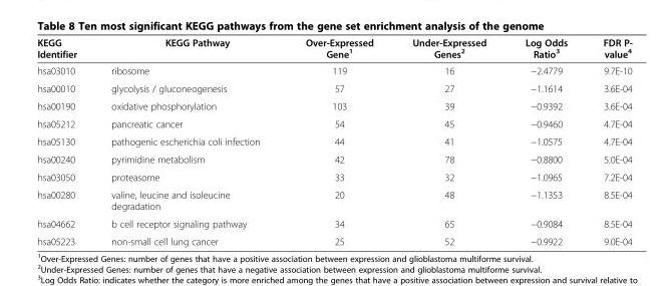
<table><thead><tr><td>KEGG Identifier</td><td>KEGG Pathway</td><td>Over-Expressed Gene<sup>1</sup></td><td>Under-Expressed Genes<sup>2</sup></td><td>Log Odds Ratio<sup>3</sup></td><td>FDR P- value<sup>4</sup></td></tr></thead><tbody><tr><td>hsa03010</td><td>ribosome</td><td>119</td><td>16</td><td>−2.4779</td><td>9.7E-10</td></tr><tr><td>hsa00010</td><td>glycolysis / gluconeogenesis</td><td>57</td><td>27</td><td>−1.1614</td><td>3.6E-04</td></tr><tr><td>hsa00190</td><td>oxidative phosphorylation</td><td>103</td><td>39</td><td>−0.9392</td><td>3.6E-04</td></tr><tr><td>hsa05212</td><td>pancreatic cancer</td><td>54</td><td>45</td><td>−0.9460</td><td>4.7E-04</td></tr><tr><td>hsa05130</td><td>pathogenic escherichia coli infection</td><td>44</td><td>41</td><td>−1.0575</td><td>4.7E-04</td></tr><tr><td>hsa00240</td><td>pyrimidine metabolism</td><td>42</td><td>78</td><td>−0.8800</td><td>5.0E-04</td></tr><tr><td>hsa03050</td><td>proteasome</td><td>33</td><td>32</td><td>−1.0965</td><td>7.2E-04</td></tr><tr><td>hsa00280</td><td>valine, leucine and isoleucine degradation</td><td>20</td><td>48</td><td>−1.1353</td><td>8.5E-04</td></tr><tr><td>hsa04662</td><td>b cell receptor signaling pathway</td><td>34</td><td>65</td><td>−0.9084</td><td>8.5E-04</td></tr><tr><td>hsa05223</td><td>non-small cell lung cancer</td><td>25</td><td>52</td><td>−0.9922</td><td>9.0E-04</td></tr></tbody></table>